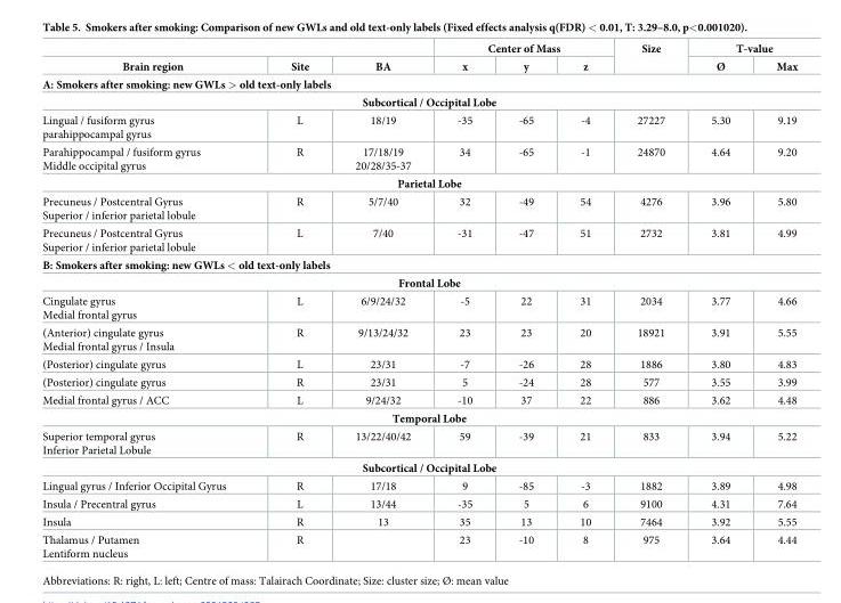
<table><thead><tr><td rowspan="2">Brain region</td><td rowspan="2">Site</td><td rowspan="2">BA</td><td colspan="3">Center of Mass</td><td rowspan="2">Size</td><td colspan="2">T-value</td></tr><tr><td>x</td><td>y</td><td>z</td><td>Ø</td><td>Max</td></tr></thead><tbody><tr><td colspan="9">A: Smokers after smoking: new GWLs &gt; old text-only labels</td></tr><tr><td colspan="9">Subcortical / Occipital Lobe</td></tr><tr><td>Lingual / fusiform gyrus parahippocampal gyrus</td><td>L</td><td>18/19</td><td>-35</td><td>-65</td><td>-4</td><td>27227</td><td>5.30</td><td>9.19</td></tr><tr><td>Parahippocampal / fusiform gyrus Middle occipital gyrus</td><td>R</td><td>17/18/19 20/28/35-37</td><td>34</td><td>-65</td><td>-1</td><td>24870</td><td>4.64</td><td>9.20</td></tr><tr><td colspan="9">Parietal Lobe</td></tr><tr><td>Precuneus / Postcentral Gyrus Superior / inferior parietal lobule</td><td>R</td><td>5/7/40</td><td>32</td><td>-49</td><td>54</td><td>4276</td><td>3.96</td><td>5.80</td></tr><tr><td>Precuneus / Postcentral Gyrus Superior / inferior parietal lobule</td><td>L</td><td>7/40</td><td>-31</td><td>-47</td><td>51</td><td>2732</td><td>3.81</td><td>4.99</td></tr><tr><td colspan="9">B: Smokers after smoking: new GWLs &lt; old text-only labels</td></tr><tr><td colspan="9">Frontal Lobe</td></tr><tr><td>Cingulate gyrus Medial frontal gyrus</td><td>L</td><td>6/9/24/32</td><td>-5</td><td>22</td><td>31</td><td>2034</td><td>3.77</td><td>4.66</td></tr><tr><td>(Anterior) cingulate gyrus Medial frontal gyrus / Insula</td><td>R</td><td>9/13/24/32</td><td>23</td><td>23</td><td>20</td><td>18921</td><td>3.91</td><td>5.55</td></tr><tr><td>(Posterior) cingulate gyrus</td><td>L</td><td>23/31</td><td>-7</td><td>-26</td><td>28</td><td>1886</td><td>3.80</td><td>4.83</td></tr><tr><td>(Posterior) cingulate gyrus</td><td>R</td><td>23/31</td><td>5</td><td>-24</td><td>28</td><td>577</td><td>3.55</td><td>3.99</td></tr><tr><td>Medial frontal gyrus / ACC</td><td>L</td><td>9/24/32</td><td>-10</td><td>37</td><td>22</td><td>886</td><td>3.62</td><td>4.48</td></tr><tr><td colspan="9">Temporal Lobe</td></tr><tr><td>Superior temporal gyrus Inferior Parietal Lobule</td><td>R</td><td>13/22/40/42</td><td>59</td><td>-39</td><td>21</td><td>833</td><td>3.94</td><td>5.22</td></tr><tr><td colspan="9">Subcortical / Occipital Lobe</td></tr><tr><td>Lingual gyrus / Inferior Occipital Gyrus</td><td>R</td><td>17/18</td><td>9</td><td>-85</td><td>-3</td><td>1882</td><td>3.89</td><td>4.98</td></tr><tr><td>Insula / Precentral gyrus</td><td>L</td><td>13/44</td><td>-35</td><td>5</td><td>6</td><td>9100</td><td>4.31</td><td>7.64</td></tr><tr><td>Insula</td><td>R</td><td>13</td><td>35</td><td>13</td><td>10</td><td>7464</td><td>3.92</td><td>5.55</td></tr><tr><td>Thalamus / Putamen Lentiform nucleus</td><td>R</td><td></td><td>23</td><td>-10</td><td>8</td><td>975</td><td>3.64</td><td>4.44</td></tr></tbody></table>